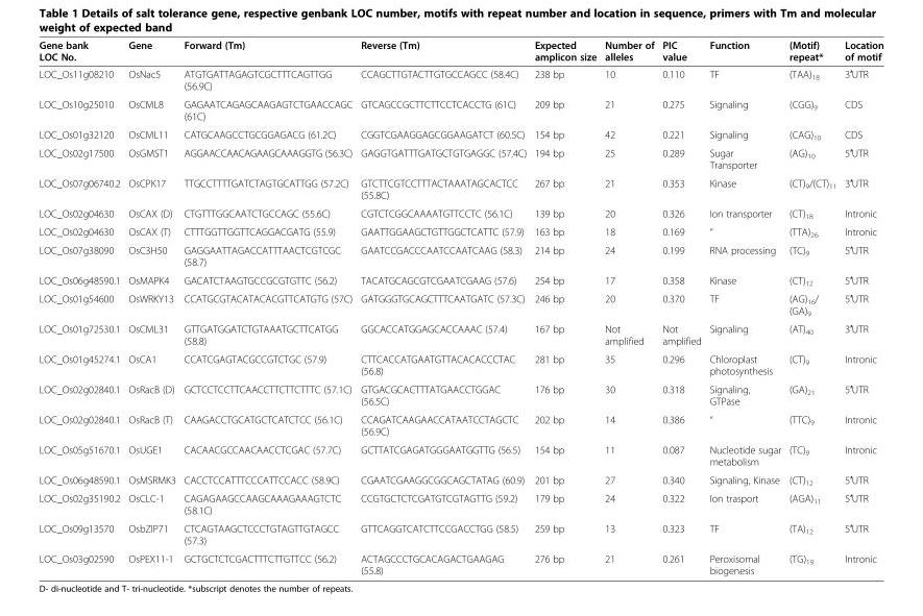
<table><thead><tr><td>Gene bank LOC No.</td><td>Gene</td><td>Forward (Tm)</td><td>Reverse (Tm)</td><td>Expected amplicon size</td><td>Number of alleles</td><td>PIC value</td><td>Function</td><td>(Motif) repeat*</td><td>Location of motif</td></tr></thead><tbody><tr><td>LOC_Os11g08210</td><td>OsNac5</td><td>ATGTGATTAGAGTCGCTTTCAGTTGG (56.9C)</td><td>CCAGCTTGTACTTGTGCCAGCC (58.4C)</td><td>238 bp</td><td>10</td><td>0.110</td><td>TF</td><td>(TAA)<sub>18</sub></td><td>3′UTR</td></tr><tr><td>LOC_Os10g25010</td><td>OsCML8</td><td>GAGAATCAGAGCAAGAGTCTGAACCAGC (61C)</td><td>GTCAGCCGCTTCTTCCTCACCTG (61C)</td><td>209 bp</td><td>21</td><td>0.275</td><td>Signaling</td><td>(CGG)<sub>9</sub></td><td>CDS</td></tr><tr><td>LOC_Os01g32120</td><td>OsCML11</td><td>CATGCAAGCCTGCGGAGACG (61.2C)</td><td>CGGTCGAAGGAGCGGAAGATCT (60.5C)</td><td>154 bp</td><td>42</td><td>0.221</td><td>Signaling</td><td>(CAG)<sub>10</sub></td><td>CDS</td></tr><tr><td>LOC_Os02g17500</td><td>OsGMST1</td><td>AGGAACCAACAGAAGCAAAGGTG (56.3C)</td><td>GAGGTGATTTGATGCTGTGAGGC (57.4C)</td><td>194 bp</td><td>25</td><td>0.289</td><td>Sugar Transporter</td><td>(AG)<sub>10</sub></td><td>5′UTR</td></tr><tr><td>LOC_Os07g06740.2</td><td>OsCPK17</td><td>TTGCCTTTTGATCTAGTGCATTGG (57.2C)</td><td>GTCTTCGTCCTTTACTAAATAGCACTCC (55.8C)</td><td>267 bp</td><td>21</td><td>0.353</td><td>Kinase</td><td>(CT)<sub>9</sub>/(CT)<sub>11</sub></td><td>3′UTR</td></tr><tr><td>LOC_Os02g04630</td><td>OsCAX (D)</td><td>CTGTTTGGCAATCTGCCAGC (55.6C)</td><td>CGTCTCGGCAAAATGTTCCTC (56.1C)</td><td>139 bp</td><td>20</td><td>0.326</td><td>Ion transporter</td><td>(CT)<sub>18</sub></td><td>Intronic</td></tr><tr><td>LOC_Os02g04630</td><td>OsCAX (T)</td><td>CTTTGGTTGGTTCAGGACGATG (55.9)</td><td>GAATTGGAAGCTGTTGGCTCATTC (57.9)</td><td>163 bp</td><td>18</td><td>0.169</td><td>“</td><td>(TTA)<sub>26</sub></td><td>Intronic</td></tr><tr><td>LOC_Os07g38090</td><td>OsC3H50</td><td>GAGGAATTAGACCATTTAACTCGTCGC (58.7)</td><td>GAATCCGACCCAATCCAATCAAG (58.3)</td><td>214 bp</td><td>24</td><td>0.199</td><td>RNA processing</td><td>(TC)<sub>9</sub></td><td>5′UTR</td></tr><tr><td>LOC_Os06g48590.1</td><td>OsMAPK4</td><td>GACATCTAAGTGCCGCGTGTTC (56.2)</td><td>TACATGCAGCGTCGAATCGAAG (57.6)</td><td>254 bp</td><td>17</td><td>0.358</td><td>Kinase</td><td>(CT)<sub>12</sub></td><td>5′UTR</td></tr><tr><td>LOC_Os01g54600</td><td>OsWRKY13</td><td>CCATGCGTACATACACGTTCATGTG (57C)</td><td>GATGGGTGCAGCTTTCAATGATC (57.3C)</td><td>246 bp</td><td>20</td><td>0.370</td><td>TF</td><td>(AG)<sub>16</sub>/ (GA)<sub>9</sub></td><td>5′UTR</td></tr><tr><td>LOC_Os01g72530.1</td><td>OsCML31</td><td>GTTGATGGATCTGTAAATGCTTCATGG (58.8)</td><td>GGCACCATGGAGCACCAAAC (57.4)</td><td>167 bp</td><td>Not amplified</td><td>Not amplified</td><td>Signaling</td><td>(AT)<sub>40</sub></td><td>3′UTR</td></tr><tr><td>LOC_Os01g45274.1</td><td>OsCA1</td><td>CCATCGAGTACGCCGTCTGC (57.9)</td><td>CTTCACCATGAATGTTACACACCCTAC (56.8)</td><td>281 bp</td><td>35</td><td>0.296</td><td>Chloroplast photosynthesis</td><td>(CT)<sub>9</sub></td><td>Intronic</td></tr><tr><td>LOC_Os02g02840.1</td><td>OsRacB (D)</td><td>GCTCCTCCTTCAACCTTCTTCTTTC (57.1C)</td><td>GTGACGCACTTTATGAACCTGGAC (56.5C)</td><td>176 bp</td><td>30</td><td>0.318</td><td>Signaling, GTPase</td><td>(GA)<sub>21</sub></td><td>5′UTR</td></tr><tr><td>LOC_Os02g02840.1</td><td>OsRacB (T)</td><td>CAAGACCTGCATGCTCATCTCC (56.1C)</td><td>CCAGATCAAGAACCATAATCCTAGCTC (56.9C)</td><td>202 bp</td><td>14</td><td>0.386</td><td>“</td><td>(TTC)<sub>9</sub></td><td>Intronic</td></tr><tr><td>LOC_Os05g51670.1</td><td>OsUGE1</td><td>CACAACGCCAACAACCTCGAC (57.7C)</td><td>GCTTATCGAGATGGGAATGGTTG (56.5)</td><td>154 bp</td><td>11</td><td>0.087</td><td>Nucleotide sugar metabolism</td><td>(TC)<sub>9</sub></td><td>Intronic</td></tr><tr><td>LOC_Os06g48590.1</td><td>OsMSRMK3</td><td>CACCTCCATTTCCCATTCCACC (58.9C)</td><td>CGAATCGAAGGCGGCAGCTATAG (60.9)</td><td>201 bp</td><td>27</td><td>0.340</td><td>Signaling, Kinase</td><td>(CT)<sub>12</sub></td><td>5′UTR</td></tr><tr><td>LOC_Os02g35190.2</td><td>OsCLC-1</td><td>CAGAGAAGCCAAGCAAAGAAAGTCTC (58.1C)</td><td>CCGTGCTCTCGATGTCGTAGTTG (59.2)</td><td>179 bp</td><td>24</td><td>0.322</td><td>Ion trasport</td><td>(AGA)<sub>11</sub></td><td>5′UTR</td></tr><tr><td>LOC_Os09g13570</td><td>OsbZIP71</td><td>CTCAGTAAGCTCCCTGTAGTTGTAGCC (57.3)</td><td>GTTCAGGTCATCTTCCGACCTGG (58.5)</td><td>259 bp</td><td>13</td><td>0.323</td><td>TF</td><td>(TA)<sub>12</sub></td><td>5′UTR</td></tr><tr><td>LOC_Os03g02590</td><td>OsPEX11-1</td><td>GCTGCTCTCGACTTTCTTGTTCC (56.2)</td><td>ACTAGCCCTGCACAGACTGAAGAG (55.8)</td><td>276 bp</td><td>21</td><td>0.261</td><td>Peroxisomal biogenesis</td><td>(TG)<sub>19</sub></td><td>Intronic</td></tr></tbody></table>